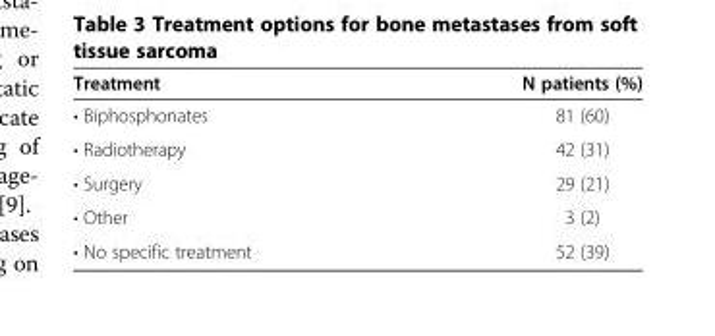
<table><thead><tr><td>Treatment</td><td>N patients (%)</td></tr></thead><tbody><tr><td>• Biphosphonates</td><td>81 (60)</td></tr><tr><td>• Radiotherapy</td><td>42 (31)</td></tr><tr><td>• Surgery</td><td>29 (21)</td></tr><tr><td>• Other</td><td>3 (2)</td></tr><tr><td>• No specific treatment</td><td>52 (39)</td></tr></tbody></table>